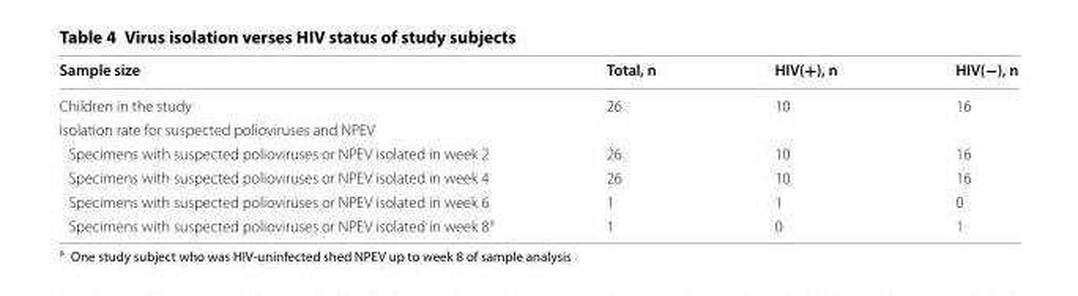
<table><thead><tr><td>Sample size</td><td>Total, n</td><td>HIV(+), n</td><td>HIV(−), n</td></tr></thead><tbody><tr><td>Children in the study</td><td>26</td><td>10</td><td>16</td></tr><tr><td colspan="4">Isolation rate for suspected polioviruses and NPEV</td></tr><tr><td>Specimens with suspected polioviruses or NPEV isolated in week 2</td><td>26</td><td>10</td><td>16</td></tr><tr><td>Specimens with suspected polioviruses or NPEV isolated in week 4</td><td>26</td><td>10</td><td>16</td></tr><tr><td>Specimens with suspected polioviruses or NPEV isolated in week 6</td><td>1</td><td>1</td><td>0</td></tr><tr><td>Specimens with suspected polioviruses or NPEV isolated in week 8<sup>a</sup></td><td>1</td><td>0</td><td>1</td></tr></tbody></table>